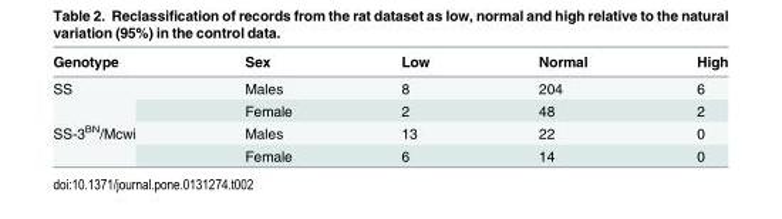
<table><thead><tr><td>Genotype</td><td>Sex</td><td>Low</td><td>Normal</td><td>High</td></tr></thead><tbody><tr><td rowspan="2">SS</td><td>Males</td><td>8</td><td>204</td><td>6</td></tr><tr><td>Female</td><td>2</td><td>48</td><td>2</td></tr><tr><td rowspan="2">SS-3<sup>BN</sup>/Mcwi</td><td>Males</td><td>13</td><td>22</td><td>0</td></tr><tr><td>Female</td><td>6</td><td>14</td><td>0</td></tr></tbody></table>